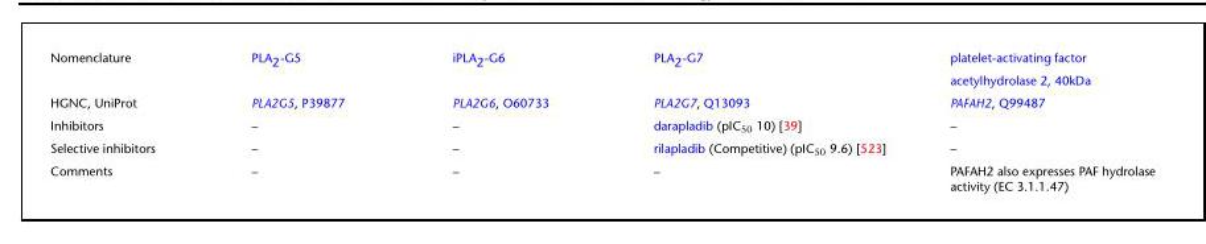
<table><tbody><tr><td rowspan="2">Nomenclature</td><td>PLA<sub>2</sub>-G5</td><td>iPLA<sub>2</sub>-G6</td><td>PLA<sub>2</sub>-G7</td><td>platelet-activating factor</td></tr><tr><td></td><td></td><td></td><td>acetylhydrolase 2, 40kDa</td></tr><tr><td>HGNC, UniProt</td><td>PLA2G5, P39877</td><td>PLA2G6, O60733</td><td>PLA2G7, Q13093</td><td>PAFAH2, Q99487</td></tr><tr><td>Inhibitors</td><td>–</td><td>–</td><td>darapladib (pIC<sub>50</sub> 10) [39]</td><td>–</td></tr><tr><td>Selective inhibitors</td><td>–</td><td>–</td><td>rilapladib (Competitive) (pIC<sub>50</sub> 9.6) [523]</td><td>–</td></tr><tr><td>Comments</td><td>–</td><td>–</td><td>–</td><td>PAFAH2 also expresses PAF hydrolase activity (EC 3.1.1.47)</td></tr></tbody></table>